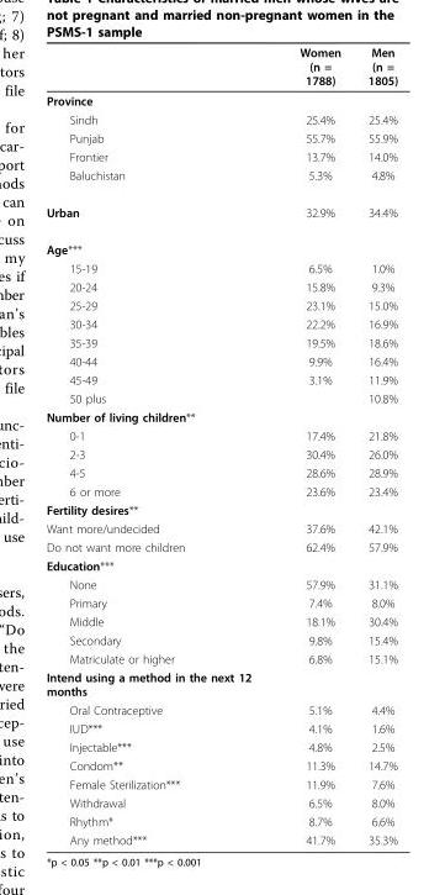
<table><thead><tr><td></td><td>Women (n = 1788)</td><td>Men (n = 1805)</td></tr></thead><tbody><tr><td colspan="3">Province</td></tr><tr><td>Sindh</td><td>25.4%</td><td>25.4%</td></tr><tr><td>Punjab</td><td>55.7%</td><td>55.9%</td></tr><tr><td>Frontier</td><td>13.7%</td><td>14.0%</td></tr><tr><td>Baluchistan</td><td>5.3%</td><td>4.8%</td></tr><tr><td>Urban</td><td>32.9%</td><td>34.4%</td></tr><tr><td colspan="3">Age***</td></tr><tr><td>15-19</td><td>6.5%</td><td>1.0%</td></tr><tr><td>20-24</td><td>15.8%</td><td>9.3%</td></tr><tr><td>25-29</td><td>23.1%</td><td>15.0%</td></tr><tr><td>30-34</td><td>22.2%</td><td>16.9%</td></tr><tr><td>35-39</td><td>19.5%</td><td>18.6%</td></tr><tr><td>40-44</td><td>9.9%</td><td>16.4%</td></tr><tr><td>45-49</td><td>3.1%</td><td>11.9%</td></tr><tr><td>50 plus</td><td></td><td>10.8%</td></tr><tr><td colspan="3">Number of living children**</td></tr><tr><td>0-1</td><td>17.4%</td><td>21.8%</td></tr><tr><td>2-3</td><td>30.4%</td><td>26.0%</td></tr><tr><td>4-5</td><td>28.6%</td><td>28.9%</td></tr><tr><td>6 or more</td><td>23.6%</td><td>23.4%</td></tr><tr><td colspan="3">Fertility desires**</td></tr><tr><td>Want more/undecided</td><td>37.6%</td><td>42.1%</td></tr><tr><td>Do not want more children</td><td>62.4%</td><td>57.9%</td></tr><tr><td colspan="3">Education***</td></tr><tr><td>None</td><td>57.9%</td><td>31.1%</td></tr><tr><td>Primary</td><td>7.4%</td><td>8.0%</td></tr><tr><td>Middle</td><td>18.1%</td><td>30.4%</td></tr><tr><td>Secondary</td><td>9.8%</td><td>15.4%</td></tr><tr><td>Matriculate or higher</td><td>6.8%</td><td>15.1%</td></tr><tr><td colspan="3">Intend using a method in the next 12 months</td></tr><tr><td>Oral Contraceptive</td><td>5.1%</td><td>4.4%</td></tr><tr><td>IUD***</td><td>4.1%</td><td>1.6%</td></tr><tr><td>Injectable***</td><td>4.8%</td><td>2.5%</td></tr><tr><td>Condom**</td><td>11.3%</td><td>14.7%</td></tr><tr><td>Female Sterilization***</td><td>11.9%</td><td>7.6%</td></tr><tr><td>Withdrawal</td><td>6.5%</td><td>8.0%</td></tr><tr><td>Rhythm*</td><td>8.7%</td><td>6.6%</td></tr><tr><td>Any method***</td><td>41.7%</td><td>35.3%</td></tr></tbody></table>